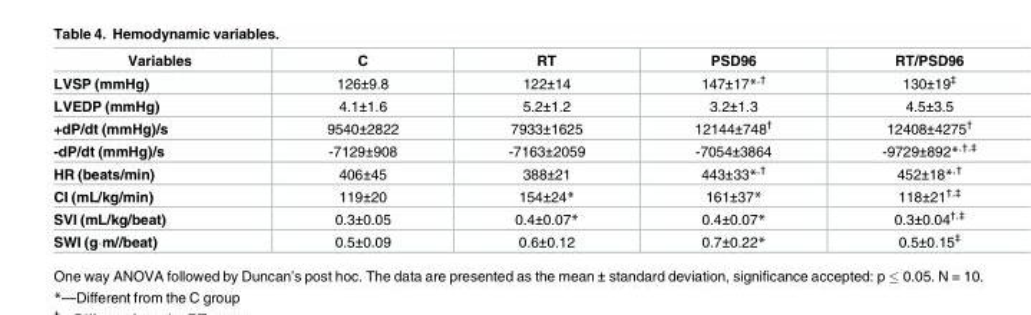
<table><thead><tr><td>Variables</td><td>C</td><td>RT</td><td>PSD96</td><td>RT/PSD96</td></tr></thead><tbody><tr><td>LVSP (mmHg)</td><td>126±9.8</td><td>122±14</td><td>147±17*<sup>,†</sup></td><td>130±19<sup>‡</sup></td></tr><tr><td>LVEDP (mmHg)</td><td>4.1±1.6</td><td>5.2±1.2</td><td>3.2±1.3</td><td>4.5±3.5</td></tr><tr><td>+dP/dt (mmHg)/s</td><td>9540±2822</td><td>7933±1625</td><td>12144±748<sup>†</sup></td><td>12408±4275<sup>†</sup></td></tr><tr><td>-dP/dt (mmHg)/s</td><td>-7129±908</td><td>-7163±2059</td><td>-7054±3864</td><td>-9729±892*<sup>,†,‡</sup></td></tr><tr><td>HR (beats/min)</td><td>406±45</td><td>388±21</td><td>443±33*<sup>,†</sup></td><td>452±18*<sup>,†</sup></td></tr><tr><td>CI (mL/kg/min)</td><td>119±20</td><td>154±24*</td><td>161±37*</td><td>118±21<sup>†,‡</sup></td></tr><tr><td>SVI (mL/kg/beat)</td><td>0.3±0.05</td><td>0.4±0.07*</td><td>0.4±0.07*</td><td>0.3±0.04<sup>†,‡</sup></td></tr><tr><td>SWI (g·m//beat)</td><td>0.5±0.09</td><td>0.6±0.12</td><td>0.7±0.22*</td><td>0.5±0.15<sup>‡</sup></td></tr></tbody></table>